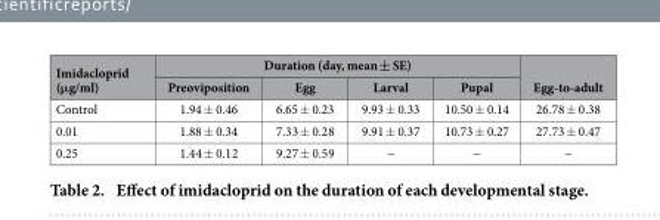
<table><thead><tr><td rowspan="2">Imidacloprid (μg/ml)</td><td colspan="4">Duration (day, mean ± SE)</td><td rowspan="2">Egg-to-adult</td></tr><tr><td>Preoviposition</td><td>Egg</td><td>Larval</td><td>Pupal</td></tr></thead><tbody><tr><td>Control</td><td>1.94 ± 0.46</td><td>6.65 ± 0.23</td><td>9.93 ± 0.33</td><td>10.50 ± 0.14</td><td>26.78 ± 0.38</td></tr><tr><td>0.01</td><td>1.88 ± 0.34</td><td>7.33 ± 0.28</td><td>9.91 ± 0.37</td><td>10.73 ± 0.27</td><td>27.73 ± 0.47</td></tr><tr><td>0.25</td><td>1.44 ± 0.12</td><td>9.27 ± 0.59</td><td>–</td><td>–</td><td>–</td></tr></tbody></table>